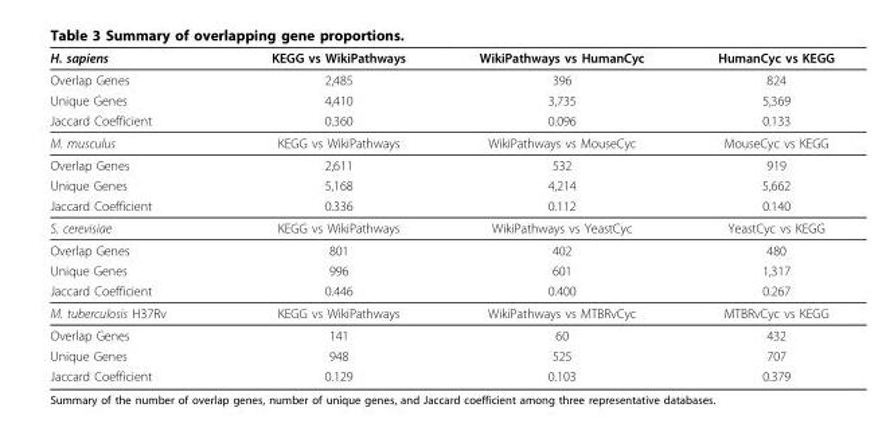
<table><thead><tr><td>H. sapiens</td><td>KEGG vs WikiPathways</td><td>WikiPathways vs HumanCyc</td><td>HumanCyc vs KEGG</td></tr></thead><tbody><tr><td>Overlap Genes</td><td>2,485</td><td>396</td><td>824</td></tr><tr><td>Unique Genes</td><td>4,410</td><td>3,735</td><td>5,369</td></tr><tr><td>Jaccard Coefficient</td><td>0.360</td><td>0.096</td><td>0.133</td></tr><tr><td>M. musculus</td><td>KEGG vs WikiPathways</td><td>WikiPathways vs MouseCyc</td><td>MouseCyc vs KEGG</td></tr><tr><td>Overlap Genes</td><td>2,611</td><td>532</td><td>919</td></tr><tr><td>Unique Genes</td><td>5,168</td><td>4,214</td><td>5,662</td></tr><tr><td>Jaccard Coefficient</td><td>0.336</td><td>0.112</td><td>0.140</td></tr><tr><td>S. cerevisiae</td><td>KEGG vs WikiPathways</td><td>WikiPathways vs YeastCyc</td><td>YeastCyc vs KEGG</td></tr><tr><td>Overlap Genes</td><td>801</td><td>402</td><td>480</td></tr><tr><td>Unique Genes</td><td>996</td><td>601</td><td>1,317</td></tr><tr><td>Jaccard Coefficient</td><td>0.446</td><td>0.400</td><td>0.267</td></tr><tr><td>M. tuberculosis H37Rv</td><td>KEGG vs WikiPathways</td><td>WikiPathways vs MTBRvCyc</td><td>MTBRvCyc vs KEGG</td></tr><tr><td>Overlap Genes</td><td>141</td><td>60</td><td>432</td></tr><tr><td>Unique Genes</td><td>948</td><td>525</td><td>707</td></tr><tr><td>Jaccard Coefficient</td><td>0.129</td><td>0.103</td><td>0.379</td></tr></tbody></table>